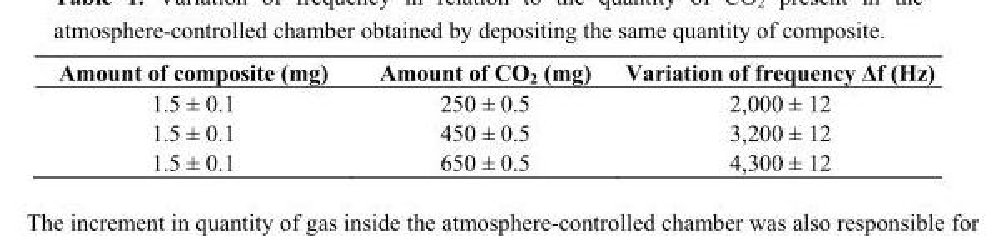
<table><thead><tr><td>Amount of composite (mg)</td><td>Amount of CO<sub>2</sub> (mg)</td><td>Variation of frequency Δf (Hz)</td></tr></thead><tbody><tr><td>1.5 ± 0.1</td><td>250 ± 0.5</td><td>2,000 ± 12</td></tr><tr><td>1.5 ± 0.1</td><td>450 ± 0.5</td><td>3,200 ± 12</td></tr><tr><td>1.5 ± 0.1</td><td>650 ± 0.5</td><td>4,300 ± 12</td></tr></tbody></table>